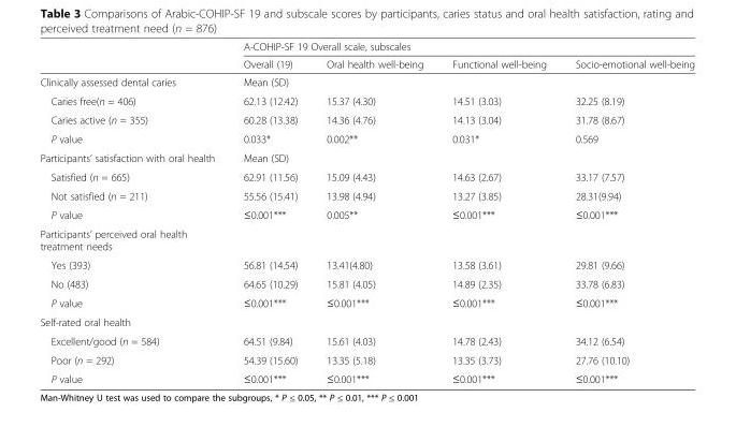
<table><thead><tr><td rowspan="2"></td><td colspan="4">A-COHIP-SF 19 Overall scale, subscales</td></tr><tr><td>Overall (19)</td><td>Oral health well-being</td><td>Functional well-being</td><td>Socio-emotional well-being</td></tr></thead><tbody><tr><td>Clinically assessed dental caries</td><td colspan="4">Mean (SD)</td></tr><tr><td>Caries free(n = 406)</td><td>62.13 (12.42)</td><td>15.37 (4.30)</td><td>14.51 (3.03)</td><td>32.25 (8.19)</td></tr><tr><td>Caries active (n = 355)</td><td>60.28 (13.38)</td><td>14.36 (4.76)</td><td>14.13 (3.04)</td><td>31.78 (8.67)</td></tr><tr><td>P value</td><td>0.033*</td><td>0.002**</td><td>0.031*</td><td>0.569</td></tr><tr><td>Participants’ satisfaction with oral health</td><td colspan="4">Mean (SD)</td></tr><tr><td>Satisfied (n = 665)</td><td>62.91 (11.56)</td><td>15.09 (4.43)</td><td>14.63 (2.67)</td><td>33.17 (7.57)</td></tr><tr><td>Not satisfied (n = 211)</td><td>55.56 (15.41)</td><td>13.98 (4.94)</td><td>13.27 (3.85)</td><td>28.31(9.94)</td></tr><tr><td>P value</td><td>≤0.001***</td><td>0.005**</td><td>≤0.001***</td><td>≤0.001***</td></tr><tr><td colspan="5">Participants’ perceived oral health treatment needs</td></tr><tr><td>Yes (393)</td><td>56.81 (14.54)</td><td>13.41(4.80)</td><td>13.58 (3.61)</td><td>29.81 (9.66)</td></tr><tr><td>No (483)</td><td>64.65 (10.29)</td><td>15.81 (4.05)</td><td>14.89 (2.35)</td><td>33.78 (6.83)</td></tr><tr><td>P value</td><td>≤0.001***</td><td>≤0.001***</td><td>≤0.001***</td><td>≤0.001***</td></tr><tr><td colspan="5">Self-rated oral health</td></tr><tr><td>Excellent/good (n = 584)</td><td>64.51 (9.84)</td><td>15.61 (4.03)</td><td>14.78 (2.43)</td><td>34.12 (6.54)</td></tr><tr><td>Poor (n = 292)</td><td>54.39 (15.60)</td><td>13.35 (5.18)</td><td>13.35 (3.73)</td><td>27.76 (10.10)</td></tr><tr><td>P value</td><td>≤0.001***</td><td>≤0.001***</td><td>≤0.001***</td><td>≤0.001***</td></tr></tbody></table>